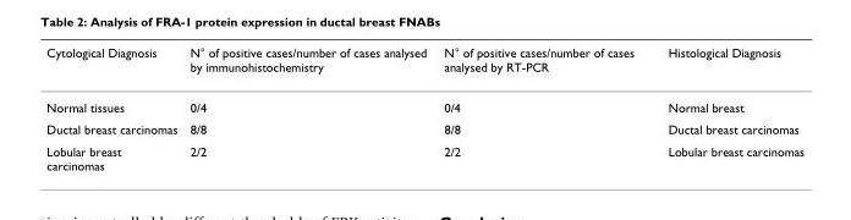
<table><thead><tr><td>Cytological Diagnosis</td><td>N° of positive cases/number of cases analysed by immunohistochemistry</td><td>N° of positive cases/number of cases analysed by RT-PCR</td><td>Histological Diagnosis</td></tr></thead><tbody><tr><td>Normal tissues</td><td>0/4</td><td>0/4</td><td>Normal breast</td></tr><tr><td>Ductal breast carcinomas</td><td>8/8</td><td>8/8</td><td>Ductal breast carcinomas</td></tr><tr><td>Lobular breast carcinomas</td><td>2/2</td><td>2/2</td><td>Lobular breast carcinomas</td></tr></tbody></table>